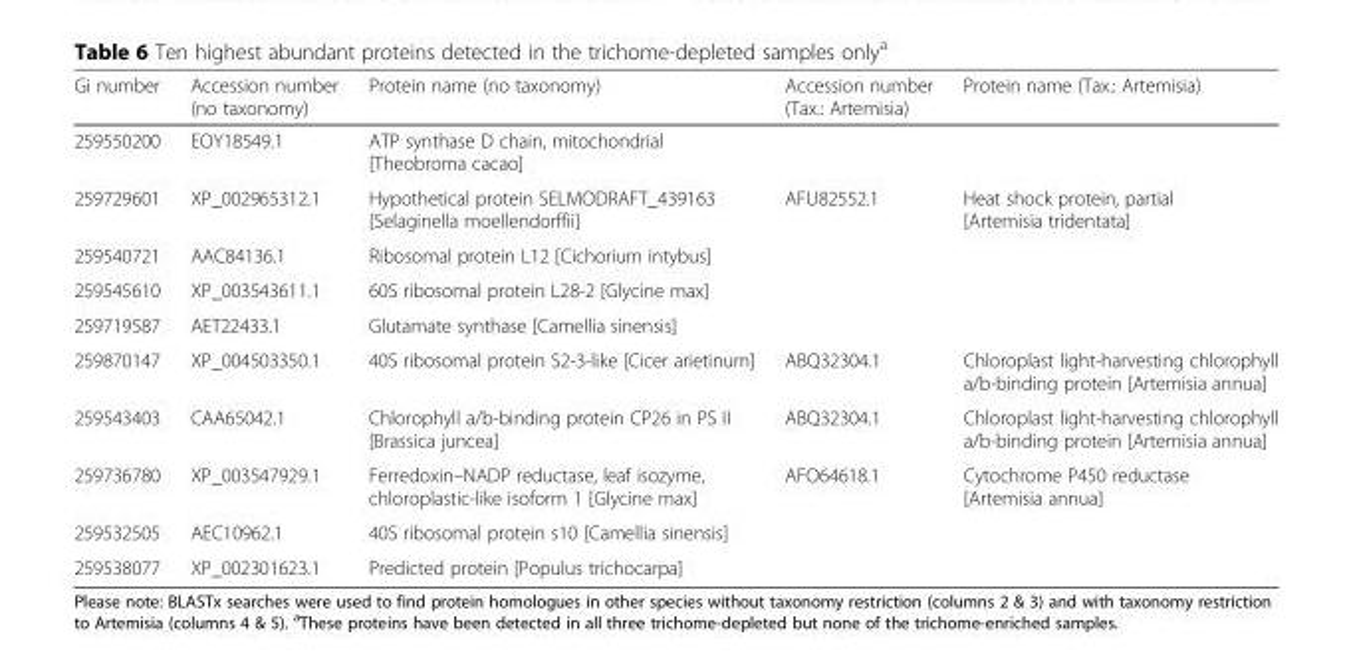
<table><thead><tr><td>Gi number</td><td>Accession number (no taxonomy)</td><td>Protein name (no taxonomy)</td><td>Accession number (Tax.: Artemisia)</td><td>Protein name (Tax.: Artemisia)</td></tr></thead><tbody><tr><td>259550200</td><td>EOY18549.1</td><td>ATP synthase D chain, mitochondrial [Theobroma cacao]</td><td></td><td></td></tr><tr><td>259729601</td><td>XP_002965312.1</td><td>Hypothetical protein SELMODRAFT_439163 [Selaginella moellendorffii]</td><td>AFU82552.1</td><td>Heat shock protein, partial [Artemisia tridentata]</td></tr><tr><td>259540721</td><td>AAC84136.1</td><td>Ribosomal protein L12 [Cichorium intybus]</td><td></td><td></td></tr><tr><td>259545610</td><td>XP_003543611.1</td><td>60S ribosomal protein L28-2 [Glycine max]</td><td></td><td></td></tr><tr><td>259719587</td><td>AET22433.1</td><td>Glutamate synthase [Camellia sinensis]</td><td></td><td></td></tr><tr><td>259870147</td><td>XP_004503350.1</td><td>40S ribosomal protein S2-3-like [Cicer arietinum]</td><td>ABQ32304.1</td><td>Chloroplast light-harvesting chlorophyll a/b-binding protein [Artemisia annua]</td></tr><tr><td>259543403</td><td>CAA65042.1</td><td>Chlorophyll a/b-binding protein CP26 in PS II [Brassica juncea]</td><td>ABQ32304.1</td><td>Chloroplast light-harvesting chlorophyll a/b-binding protein [Artemisia annua]</td></tr><tr><td>259736780</td><td>XP_003547929.1</td><td>Ferredoxin–NADP reductase, leaf isozyme, chloroplastic-like isoform 1 [Glycine max]</td><td>AFO64618.1</td><td>Cytochrome P450 reductase [Artemisia annua]</td></tr><tr><td>259532505</td><td>AEC10962.1</td><td>40S ribosomal protein s10 [Camellia sinensis]</td><td></td><td></td></tr><tr><td>259538077</td><td>XP_002301623.1</td><td>Predicted protein [Populus trichocarpa]</td><td></td><td></td></tr></tbody></table>